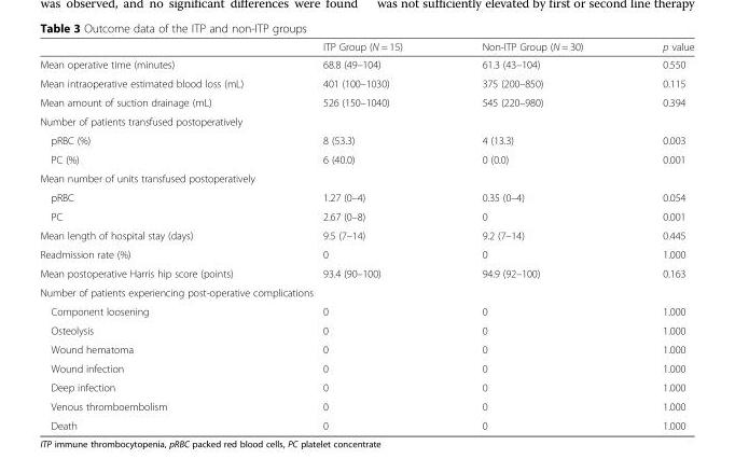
<table><thead><tr><td></td><td>ITP Group (N = 15)</td><td>Non-ITP Group (N = 30)</td><td>p value</td></tr></thead><tbody><tr><td>Mean operative time (minutes)</td><td>68.8 (49–104)</td><td>61.3 (43–104)</td><td>0.550</td></tr><tr><td>Mean intraoperative estimated blood loss (mL)</td><td>401 (100–1030)</td><td>375 (200–850)</td><td>0.115</td></tr><tr><td>Mean amount of suction drainage (mL)</td><td>526 (150–1040)</td><td>545 (220–980)</td><td>0.394</td></tr><tr><td colspan="4">Number of patients transfused postoperatively</td></tr><tr><td>pRBC (%)</td><td>8 (53.3)</td><td>4 (13.3)</td><td>0.003</td></tr><tr><td>PC (%)</td><td>6 (40.0)</td><td>0 (0.0)</td><td>0.001</td></tr><tr><td colspan="4">Mean number of units transfused postoperatively</td></tr><tr><td>pRBC</td><td>1.27 (0–4)</td><td>0.35 (0–4)</td><td>0.054</td></tr><tr><td>PC</td><td>2.67 (0–8)</td><td>0</td><td>0.001</td></tr><tr><td>Mean length of hospital stay (days)</td><td>9.5 (7–14)</td><td>9.2 (7–14)</td><td>0.445</td></tr><tr><td>Readmission rate (%)</td><td>0</td><td>0</td><td>1.000</td></tr><tr><td>Mean postoperative Harris hip score (points)</td><td>93.4 (90–100)</td><td>94.9 (92–100)</td><td>0.163</td></tr><tr><td colspan="4">Number of patients experiencing post-operative complications</td></tr><tr><td>Component loosening</td><td>0</td><td>0</td><td>1.000</td></tr><tr><td>Osteolysis</td><td>0</td><td>0</td><td>1.000</td></tr><tr><td>Wound hematoma</td><td>0</td><td>0</td><td>1.000</td></tr><tr><td>Wound infection</td><td>0</td><td>0</td><td>1.000</td></tr><tr><td>Deep infection</td><td>0</td><td>0</td><td>1.000</td></tr><tr><td>Venous thromboembolism</td><td>0</td><td>0</td><td>1.000</td></tr><tr><td>Death</td><td>0</td><td>0</td><td>1.000</td></tr></tbody></table>